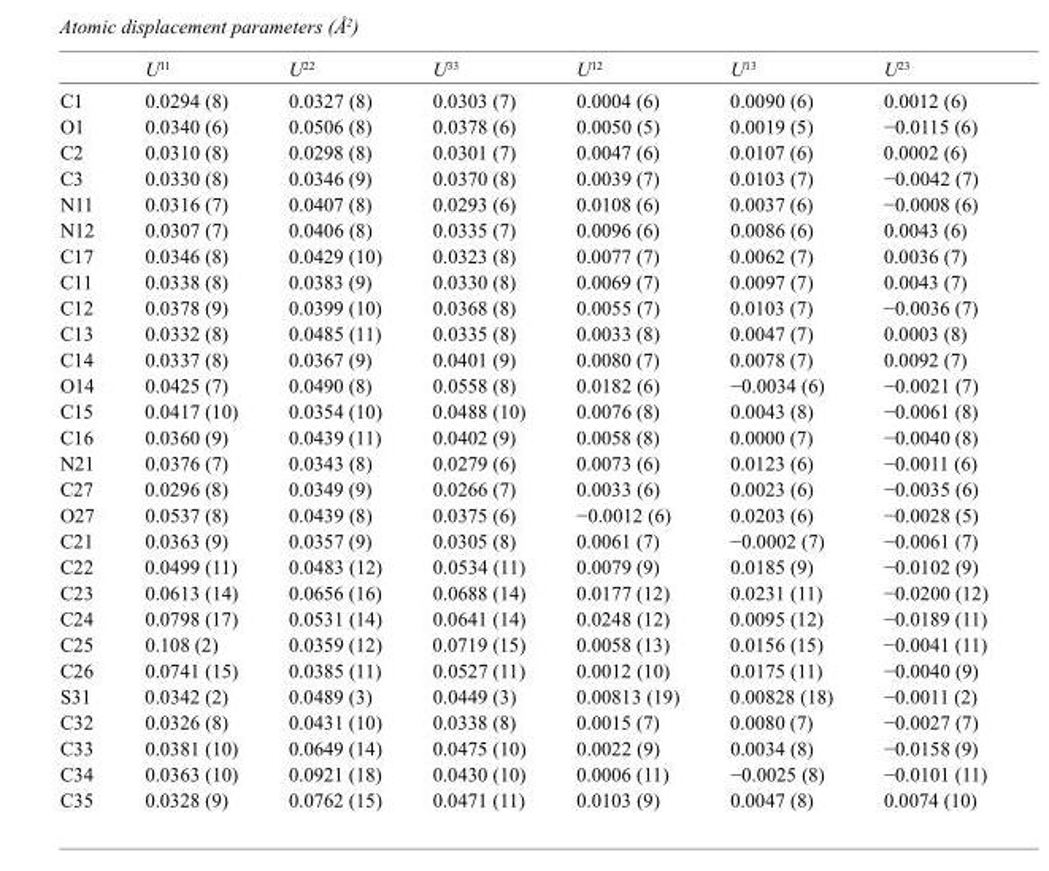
<table><thead><tr><td></td><td>U<sup>11</sup></td><td>U<sup>22</sup></td><td>U<sup>33</sup></td><td>U<sup>12</sup></td><td>U<sup>13</sup></td><td>U<sup>23</sup></td></tr></thead><tbody><tr><td>C1</td><td>0.0294 (8)</td><td>0.0327 (8)</td><td>0.0303 (7)</td><td>0.0004 (6)</td><td>0.0090 (6)</td><td>0.0012 (6)</td></tr><tr><td>O1</td><td>0.0340 (6)</td><td>0.0506 (8)</td><td>0.0378 (6)</td><td>0.0050 (5)</td><td>0.0019 (5)</td><td>−0.0115 (6)</td></tr><tr><td>C2</td><td>0.0310 (8)</td><td>0.0298 (8)</td><td>0.0301 (7)</td><td>0.0047 (6)</td><td>0.0107 (6)</td><td>0.0002 (6)</td></tr><tr><td>C3</td><td>0.0330 (8)</td><td>0.0346 (9)</td><td>0.0370 (8)</td><td>0.0039 (7)</td><td>0.0103 (7)</td><td>−0.0042 (7)</td></tr><tr><td>N11</td><td>0.0316 (7)</td><td>0.0407 (8)</td><td>0.0293 (6)</td><td>0.0108 (6)</td><td>0.0037 (6)</td><td>−0.0008 (6)</td></tr><tr><td>N12</td><td>0.0307 (7)</td><td>0.0406 (8)</td><td>0.0335 (7)</td><td>0.0096 (6)</td><td>0.0086 (6)</td><td>0.0043 (6)</td></tr><tr><td>C17</td><td>0.0346 (8)</td><td>0.0429 (10)</td><td>0.0323 (8)</td><td>0.0077 (7)</td><td>0.0062 (7)</td><td>0.0036 (7)</td></tr><tr><td>C11</td><td>0.0338 (8)</td><td>0.0383 (9)</td><td>0.0330 (8)</td><td>0.0069 (7)</td><td>0.0097 (7)</td><td>0.0043 (7)</td></tr><tr><td>C12</td><td>0.0378 (9)</td><td>0.0399 (10)</td><td>0.0368 (8)</td><td>0.0055 (7)</td><td>0.0103 (7)</td><td>−0.0036 (7)</td></tr><tr><td>C13</td><td>0.0332 (8)</td><td>0.0485 (11)</td><td>0.0335 (8)</td><td>0.0033 (8)</td><td>0.0047 (7)</td><td>0.0003 (8)</td></tr><tr><td>C14</td><td>0.0337 (8)</td><td>0.0367 (9)</td><td>0.0401 (9)</td><td>0.0080 (7)</td><td>0.0078 (7)</td><td>0.0092 (7)</td></tr><tr><td>O14</td><td>0.0425 (7)</td><td>0.0490 (8)</td><td>0.0558 (8)</td><td>0.0182 (6)</td><td>−0.0034 (6)</td><td>−0.0021 (7)</td></tr><tr><td>C15</td><td>0.0417 (10)</td><td>0.0354 (10)</td><td>0.0488 (10)</td><td>0.0076 (8)</td><td>0.0043 (8)</td><td>−0.0061 (8)</td></tr><tr><td>C16</td><td>0.0360 (9)</td><td>0.0439 (11)</td><td>0.0402 (9)</td><td>0.0058 (8)</td><td>0.0000 (7)</td><td>−0.0040 (8)</td></tr><tr><td>N21</td><td>0.0376 (7)</td><td>0.0343 (8)</td><td>0.0279 (6)</td><td>0.0073 (6)</td><td>0.0123 (6)</td><td>−0.0011 (6)</td></tr><tr><td>C27</td><td>0.0296 (8)</td><td>0.0349 (9)</td><td>0.0266 (7)</td><td>0.0033 (6)</td><td>0.0023 (6)</td><td>−0.0035 (6)</td></tr><tr><td>O27</td><td>0.0537 (8)</td><td>0.0439 (8)</td><td>0.0375 (6)</td><td>−0.0012 (6)</td><td>0.0203 (6)</td><td>−0.0028 (5)</td></tr><tr><td>C21</td><td>0.0363 (9)</td><td>0.0357 (9)</td><td>0.0305 (8)</td><td>0.0061 (7)</td><td>−0.0002 (7)</td><td>−0.0061 (7)</td></tr><tr><td>C22</td><td>0.0499 (11)</td><td>0.0483 (12)</td><td>0.0534 (11)</td><td>0.0079 (9)</td><td>0.0185 (9)</td><td>−0.0102 (9)</td></tr><tr><td>C23</td><td>0.0613 (14)</td><td>0.0656 (16)</td><td>0.0688 (14)</td><td>0.0177 (12)</td><td>0.0231 (11)</td><td>−0.0200 (12)</td></tr><tr><td>C24</td><td>0.0798 (17)</td><td>0.0531 (14)</td><td>0.0641 (14)</td><td>0.0248 (12)</td><td>0.0095 (12)</td><td>−0.0189 (11)</td></tr><tr><td>C25</td><td>0.108 (2)</td><td>0.0359 (12)</td><td>0.0719 (15)</td><td>0.0058 (13)</td><td>0.0156 (15)</td><td>−0.0041 (11)</td></tr><tr><td>C26</td><td>0.0741 (15)</td><td>0.0385 (11)</td><td>0.0527 (11)</td><td>0.0012 (10)</td><td>0.0175 (11)</td><td>−0.0040 (9)</td></tr><tr><td>S31</td><td>0.0342 (2)</td><td>0.0489 (3)</td><td>0.0449 (3)</td><td>0.00813 (19)</td><td>0.00828 (18)</td><td>−0.0011 (2)</td></tr><tr><td>C32</td><td>0.0326 (8)</td><td>0.0431 (10)</td><td>0.0338 (8)</td><td>0.0015 (7)</td><td>0.0080 (7)</td><td>−0.0027 (7)</td></tr><tr><td>C33</td><td>0.0381 (10)</td><td>0.0649 (14)</td><td>0.0475 (10)</td><td>0.0022 (9)</td><td>0.0034 (8)</td><td>−0.0158 (9)</td></tr><tr><td>C34</td><td>0.0363 (10)</td><td>0.0921 (18)</td><td>0.0430 (10)</td><td>0.0006 (11)</td><td>−0.0025 (8)</td><td>−0.0101 (11)</td></tr><tr><td>C35</td><td>0.0328 (9)</td><td>0.0762 (15)</td><td>0.0471 (11)</td><td>0.0103 (9)</td><td>0.0047 (8)</td><td>0.0074 (10)</td></tr></tbody></table>